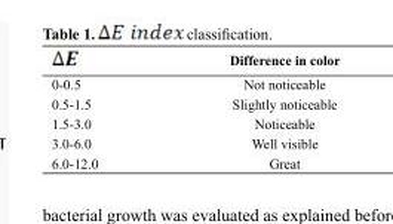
<table><thead><tr><td></td><td>Difference in color</td></tr></thead><tbody><tr><td>0-0.5</td><td>Not noticeable</td></tr><tr><td>0.5-1.5</td><td>Slightly noticeable</td></tr><tr><td>1.5-3.0</td><td>Noticeable</td></tr><tr><td>3.0-6.0</td><td>Well visible</td></tr><tr><td>6.0-12.0</td><td>Great</td></tr></tbody></table>